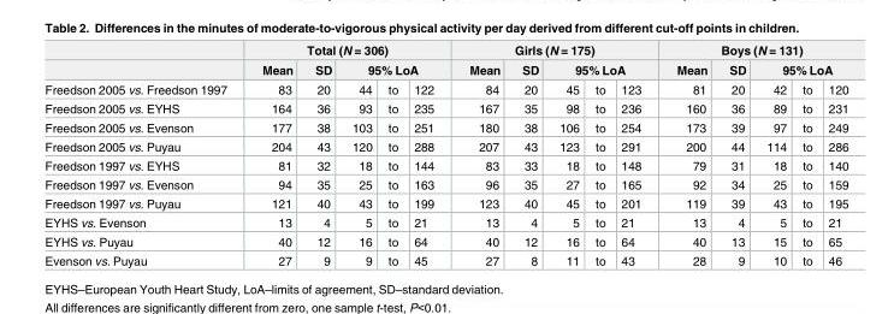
<table><thead><tr><td rowspan="3">Freedson 2005 vs. Freedson 1997</td><td colspan="5">Total (N = 306)</td><td colspan="5">Girls (N = 175)</td><td colspan="5">Boys (N = 131)</td></tr><tr><td rowspan="2">Mean 83</td><td rowspan="2">SD 20</td><td colspan="3">95% LoA</td><td rowspan="2">Mean 84</td><td rowspan="2">SD 20</td><td colspan="3">95% LoA</td><td rowspan="2">Mean 81</td><td rowspan="2">SD 20</td><td colspan="3">95% LoA</td></tr><tr><td>44</td><td>to</td><td>122</td><td>45</td><td>to</td><td>123</td><td>42</td><td>to</td><td>120</td></tr></thead><tbody><tr><td>Freedson 2005 vs. EYHS</td><td>164</td><td>36</td><td>93</td><td>to</td><td>235</td><td>167</td><td>35</td><td>98</td><td>to</td><td>236</td><td>160</td><td>36</td><td>89</td><td>to</td><td>231</td></tr><tr><td>Freedson 2005 vs. Evenson</td><td>177</td><td>38</td><td>103</td><td>to</td><td>251</td><td>180</td><td>38</td><td>106</td><td>to</td><td>254</td><td>173</td><td>39</td><td>97</td><td>to</td><td>249</td></tr><tr><td>Freedson 2005 vs. Puyau</td><td>204</td><td>43</td><td>120</td><td>to</td><td>288</td><td>207</td><td>43</td><td>123</td><td>to</td><td>291</td><td>200</td><td>44</td><td>114</td><td>to</td><td>286</td></tr><tr><td>Freedson 1997 vs. EYHS</td><td>81</td><td>32</td><td>18</td><td>to</td><td>144</td><td>83</td><td>33</td><td>18</td><td>to</td><td>148</td><td>79</td><td>31</td><td>18</td><td>to</td><td>140</td></tr><tr><td>Freedson 1997 vs. Evenson</td><td>94</td><td>35</td><td>25</td><td>to</td><td>163</td><td>96</td><td>35</td><td>27</td><td>to</td><td>165</td><td>92</td><td>34</td><td>25</td><td>to</td><td>159</td></tr><tr><td>Freedson 1997 vs. Puyau</td><td>121</td><td>40</td><td>43</td><td>to</td><td>199</td><td>123</td><td>40</td><td>45</td><td>to</td><td>201</td><td>119</td><td>39</td><td>43</td><td>to</td><td>195</td></tr><tr><td>EYHS vs. Evenson</td><td>13</td><td>4</td><td>5</td><td>to</td><td>21</td><td>13</td><td>4</td><td>5</td><td>to</td><td>21</td><td>13</td><td>4</td><td>5</td><td>to</td><td>21</td></tr><tr><td>EYHS vs. Puyau</td><td>40</td><td>12</td><td>16</td><td>to</td><td>64</td><td>40</td><td>12</td><td>16</td><td>to</td><td>64</td><td>40</td><td>13</td><td>15</td><td>to</td><td>65</td></tr><tr><td>Evenson vs. Puyau</td><td>27</td><td>9</td><td>9</td><td>to</td><td>45</td><td>27</td><td>8</td><td>11</td><td>to</td><td>43</td><td>28</td><td>9</td><td>10</td><td>to</td><td>46</td></tr></tbody></table>